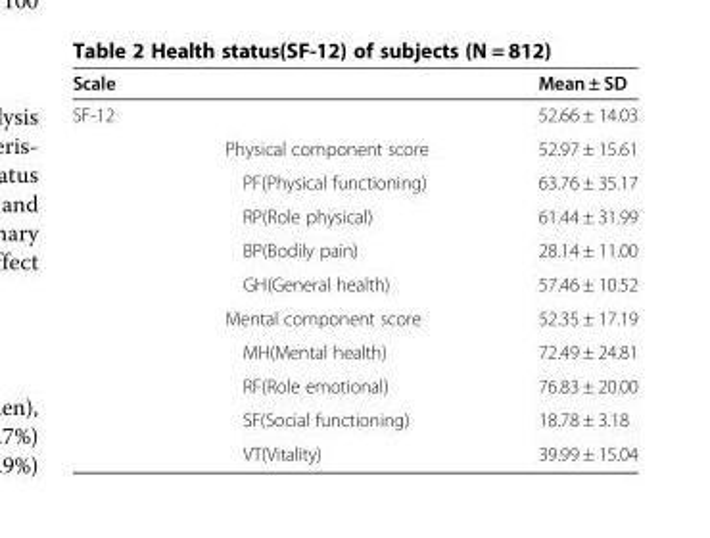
<table><thead><tr><td>Scale</td><td></td><td>Mean ± SD</td></tr></thead><tbody><tr><td rowspan="11">SF-12</td><td></td><td>52.66 ± 14.03</td></tr><tr><td>Physical component score</td><td>52.97 ± 15.61</td></tr><tr><td>PF(Physical functioning)</td><td>63.76 ± 35.17</td></tr><tr><td>RP(Role physical)</td><td>61.44 ± 31.99</td></tr><tr><td>BP(Bodily pain)</td><td>28.14 ± 11.00</td></tr><tr><td>GH(General health)</td><td>57.46 ± 10.52</td></tr><tr><td>Mental component score</td><td>52.35 ± 17.19</td></tr><tr><td>MH(Mental health)</td><td>72.49 ± 24.81</td></tr><tr><td>RF(Role emotional)</td><td>76.83 ± 20.00</td></tr><tr><td>SF(Social functioning)</td><td>18.78 ± 3.18</td></tr><tr><td>VT(Vitality)</td><td>39.99 ± 15.04</td></tr></tbody></table>